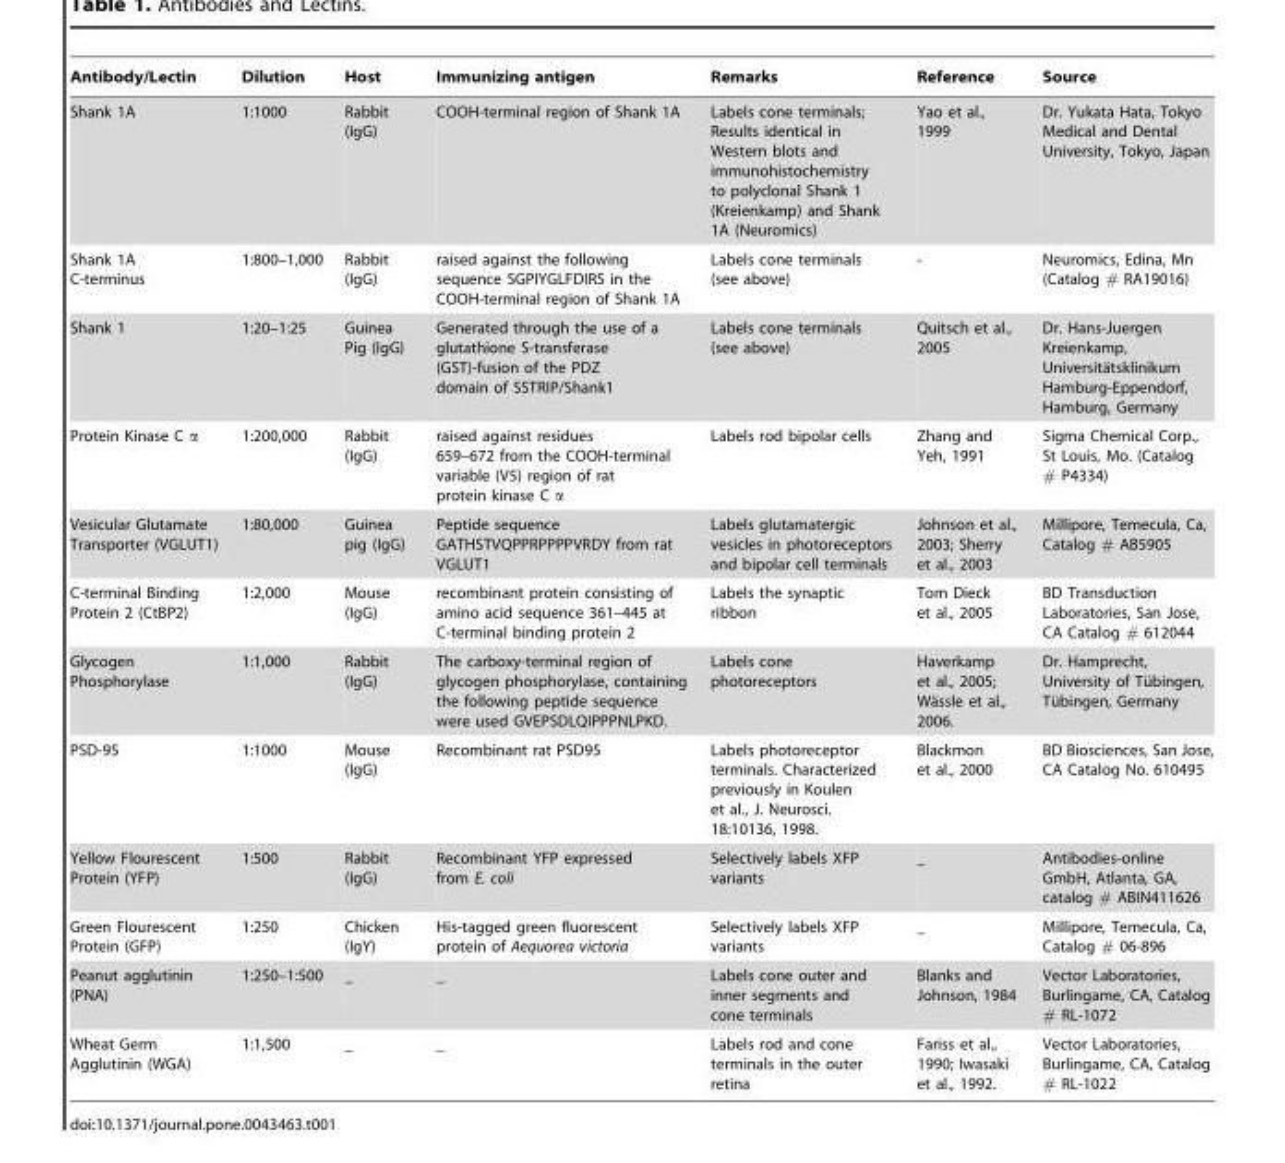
<table><thead><tr><td>Antibody/Lectin</td><td>Dilution</td><td>Host</td><td>Immunizing antigen</td><td>Remarks</td><td>Reference</td><td>Source</td></tr></thead><tbody><tr><td>Shank 1A</td><td>1:1000</td><td>Rabbit (IgG)</td><td>COOH-terminal region of Shank 1A</td><td>Labels cone terminals; Results identical in Western blots and immunohistochemistry to polyclonal Shank 1 (Kreienkamp) and Shank 1A (Neuromics)</td><td>Yao et al., 1999</td><td>Dr. Yukata Hata, Tokyo Medical and Dental University, Tokyo, Japan</td></tr><tr><td>Shank 1A C-terminus</td><td>1:800–1,000</td><td>Rabbit (IgG)</td><td>raised against the following sequence SGPIYGLFDIRS in the COOH-terminal region of Shank 1A</td><td>Labels cone terminals (see above)</td><td>-</td><td>Neuromics, Edina, Mn (Catalog # RA19016)</td></tr><tr><td>Shank 1</td><td>1:20–1:25</td><td>Guinea Pig (IgG)</td><td>Generated through the use of a glutathione S-transferase (GST)-fusion of the PDZ domain of SSTRIP/Shank1</td><td>Labels cone terminals (see above)</td><td>Quitsch et al., 2005</td><td>Dr. Hans-Juergen Kreienkamp, Universita¨tsklinikum Hamburg-Eppendorf, Hamburg, Germany</td></tr><tr><td>Protein Kinase C α</td><td>1:200,000</td><td>Rabbit (IgG)</td><td>raised against residues 659–672 from the COOH-terminal variable (V5) region of rat protein kinase C α</td><td>Labels rod bipolar cells</td><td>Zhang and Yeh, 1991</td><td>Sigma Chemical Corp., St Louis, Mo. (Catalog # P4334)</td></tr><tr><td>Vesicular Glutamate Transporter (VGLUT1)</td><td>1:80,000</td><td>Guinea pig (IgG)</td><td>Peptide sequence GATHSTVQPPRPPPPVRDY from rat VGLUT1</td><td>Labels glutamatergic vesicles in photoreceptors and bipolar cell terminals</td><td>Johnson et al., 2003; Sherry et al., 2003</td><td>Millipore, Temecula, Ca, Catalog # AB5905</td></tr><tr><td>C-terminal Binding Protein 2 (CtBP2)</td><td>1:2,000</td><td>Mouse (IgG)</td><td>recombinant protein consisting of amino acid sequence 361–445 at C-terminal binding protein 2</td><td>Labels the synaptic ribbon</td><td>Tom Dieck et al., 2005</td><td>BD Transduction Laboratories, San Jose, CA Catalog # 612044</td></tr><tr><td>Glycogen Phosphorylase</td><td>1:1,000</td><td>Rabbit (IgG)</td><td>The carboxy-terminal region of glycogen phosphorylase, containing the following peptide sequence were used GVEPSDLQIPPPNLPKD.</td><td>Labels cone photoreceptors</td><td>Haverkamp et al., 2005; Wa¨ssle et al., 2006.</td><td>Dr. Hamprecht, University of Tu¨bingen, Tu¨bingen, Germany</td></tr><tr><td>PSD-95</td><td>1:1000</td><td>Mouse (IgG)</td><td>Recombinant rat PSD95</td><td>Labels photoreceptor terminals. Characterized previously in Koulen et al., J. Neurosci. 18:10136, 1998.</td><td>Blackmon et al., 2000</td><td>BD Biosciences, San Jose, CA Catalog No. 610495</td></tr><tr><td>Yellow Flourescent Protein (YFP)</td><td>1:500</td><td>Rabbit (IgG)</td><td>Recombinant YFP expressed from E. coli</td><td>Selectively labels XFP variants</td><td>_</td><td>Antibodies-online GmbH, Atlanta, GA, catalog # ABIN411626</td></tr><tr><td>Green Flourescent Protein (GFP)</td><td>1:250</td><td>Chicken (IgY)</td><td>His-tagged green fluorescent protein of Aequorea victoria</td><td>Selectively labels XFP variants</td><td>_</td><td>Millipore, Temecula, Ca, Catalog # 06-896</td></tr><tr><td>Peanut agglutinin (PNA)</td><td>1:250–1:500</td><td>_</td><td>_</td><td>Labels cone outer and inner segments and cone terminals</td><td>Blanks and Johnson, 1984</td><td>Vector Laboratories, Burlingame, CA, Catalog # RL-1072</td></tr><tr><td>Wheat Germ Agglutinin (WGA)</td><td>1:1,500</td><td>_</td><td>_</td><td>Labels rod and cone terminals in the outer retina</td><td>Fariss et al., 1990; Iwasaki et al., 1992.</td><td>Vector Laboratories, Burlingame, CA, Catalog # RL-1022</td></tr></tbody></table>